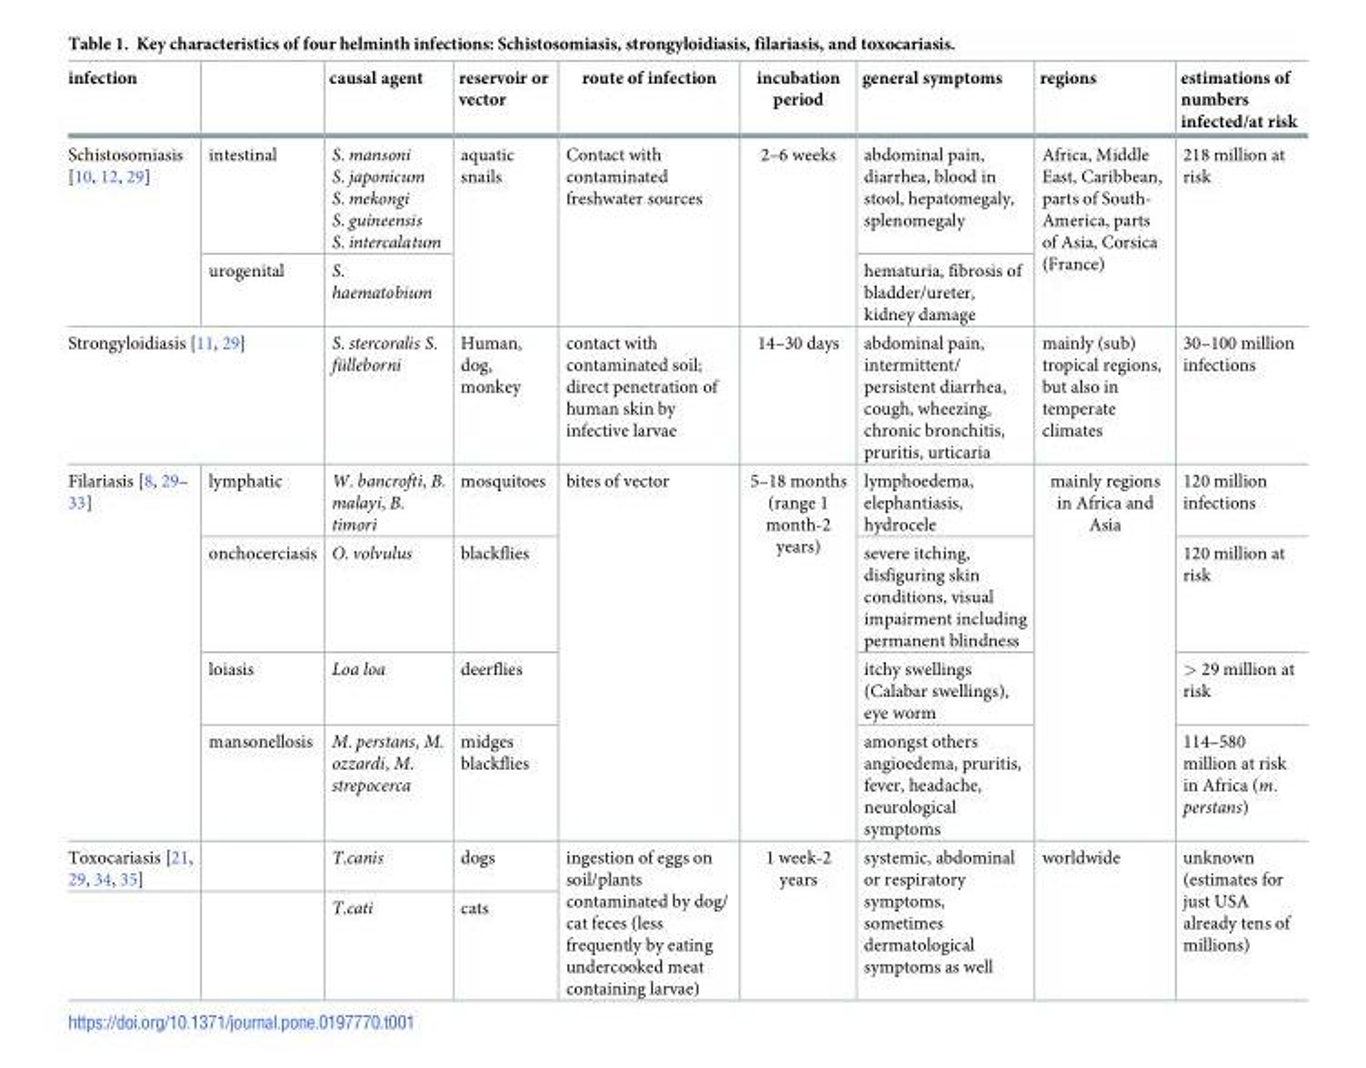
<table><thead><tr><td>infection</td><td></td><td>causal agent</td><td>reservoir or vector</td><td>route of infection</td><td>incubation period</td><td>general symptoms</td><td>regions</td><td>estimations of numbers infected/at risk</td></tr></thead><tbody><tr><td rowspan="2">Schistosomiasis [10, 12, 29]</td><td>intestinal</td><td>S. mansoni S. japonicum S. mekongi S. guineensis S. intercalatum</td><td rowspan="2">aquatic snails</td><td rowspan="2">Contact with contaminated freshwater sources</td><td rowspan="2">2–6 weeks</td><td>abdominal pain, diarrhea, blood in stool, hepatomegaly, splenomegaly</td><td rowspan="2">Africa, Middle East, Caribbean, parts of South- America, parts of Asia, Corsica (France)</td><td rowspan="2">218 million at risk</td></tr><tr><td>urogenital</td><td>S. haematobium</td><td>hematuria, fibrosis of bladder/ureter, kidney damage</td></tr><tr><td colspan="2">Strongyloidiasis [11, 29]</td><td>S. stercoralis S. fülleborni</td><td>Human, dog, monkey</td><td>contact with contaminated soil; direct penetration of human skin by infective larvae</td><td>14–30 days</td><td>abdominal pain, intermittent/ persistent diarrhea, cough, wheezing, chronic bronchitis, pruritis, urticaria</td><td>mainly (sub) tropical regions, but also in temperate climates</td><td>30–100 million infections</td></tr><tr><td rowspan="4">Filariasis [8, 29– 33]</td><td>lymphatic</td><td>W. bancrofti, B. malayi, B. timori</td><td>mosquitoes</td><td rowspan="4">bites of vector</td><td rowspan="4">5–18 months (range 1 month-2 years)</td><td>lymphoedema, elephantiasis, hydrocele</td><td rowspan="4">mainly regions in Africa and Asia</td><td>120 million infections</td></tr><tr><td>onchocerciasis</td><td>O. volvulus</td><td>blackflies</td><td>severe itching, disfiguring skin conditions, visual impairment including permanent blindness</td><td>120 million at risk</td></tr><tr><td>loiasis</td><td>Loa loa</td><td>deerflies</td><td>itchy swellings (Calabar swellings), eye worm</td><td>&gt; 29 million at risk</td></tr><tr><td>mansonellosis</td><td>M. perstans, M. ozzardi, M. strepocerca</td><td>midges blackflies</td><td>amongst others angioedema, pruritis, fever, headache, neurological symptoms</td><td>114–580 million at risk in Africa (m. perstans)</td></tr><tr><td rowspan="2">Toxocariasis [21, 29, 34, 35]</td><td></td><td>T.canis</td><td>dogs</td><td rowspan="2">ingestion of eggs on soil/plants contaminated by dog/ cat feces (less frequently by eating undercooked meat containing larvae)</td><td rowspan="2">1 week-2 years</td><td rowspan="2">systemic, abdominal or respiratory symptoms, sometimes dermatological symptoms as well</td><td rowspan="2">worldwide</td><td rowspan="2">unknown (estimates for just USA already tens of millions)</td></tr><tr><td></td><td>T.cati</td><td>cats</td></tr></tbody></table>